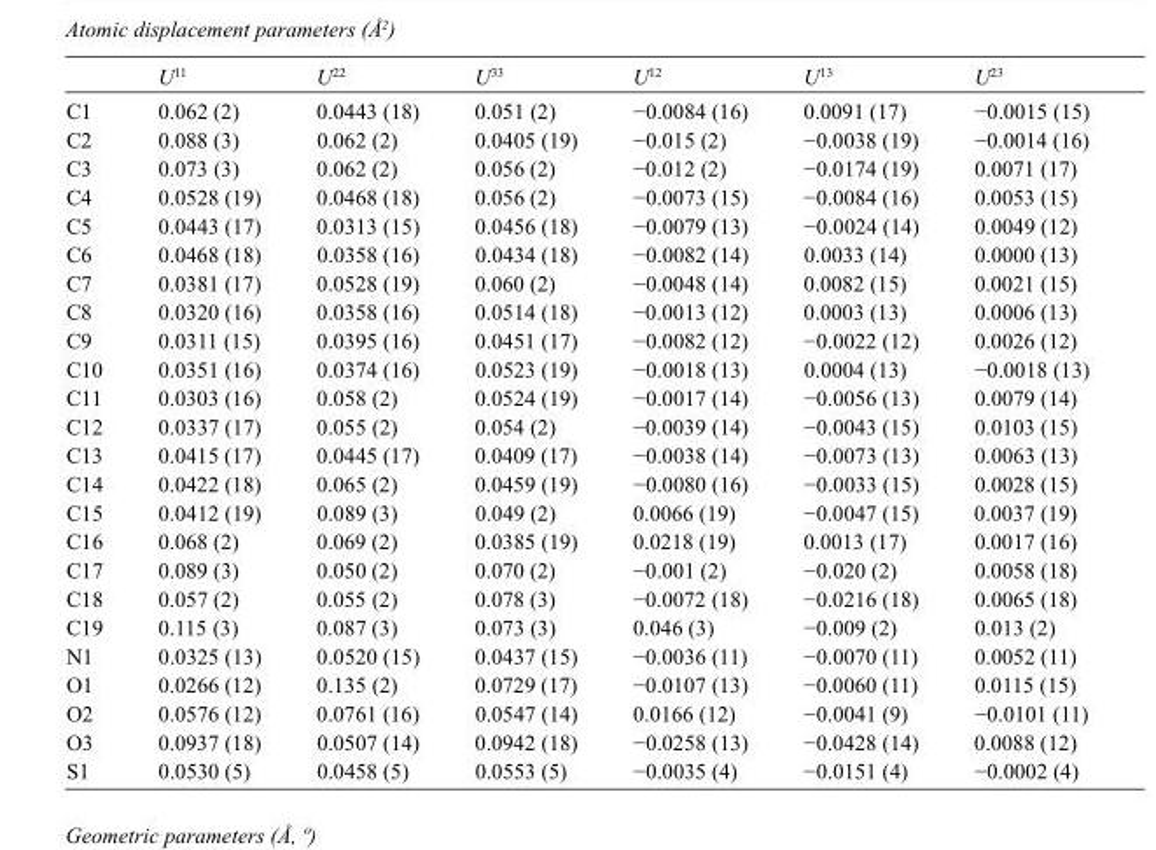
<table><thead><tr><td></td><td>U<sup>11</sup></td><td>U<sup>22</sup></td><td>U<sup>33</sup></td><td>U<sup>12</sup></td><td>U<sup>13</sup></td><td>U<sup>23</sup></td></tr></thead><tbody><tr><td>C1</td><td>0.062 (2)</td><td>0.0443 (18)</td><td>0.051 (2)</td><td>−0.0084 (16)</td><td>0.0091 (17)</td><td>−0.0015 (15)</td></tr><tr><td>C2</td><td>0.088 (3)</td><td>0.062 (2)</td><td>0.0405 (19)</td><td>−0.015 (2)</td><td>−0.0038 (19)</td><td>−0.0014 (16)</td></tr><tr><td>C3</td><td>0.073 (3)</td><td>0.062 (2)</td><td>0.056 (2)</td><td>−0.012 (2)</td><td>−0.0174 (19)</td><td>0.0071 (17)</td></tr><tr><td>C4</td><td>0.0528 (19)</td><td>0.0468 (18)</td><td>0.056 (2)</td><td>−0.0073 (15)</td><td>−0.0084 (16)</td><td>0.0053 (15)</td></tr><tr><td>C5</td><td>0.0443 (17)</td><td>0.0313 (15)</td><td>0.0456 (18)</td><td>−0.0079 (13)</td><td>−0.0024 (14)</td><td>0.0049 (12)</td></tr><tr><td>C6</td><td>0.0468 (18)</td><td>0.0358 (16)</td><td>0.0434 (18)</td><td>−0.0082 (14)</td><td>0.0033 (14)</td><td>0.0000 (13)</td></tr><tr><td>C7</td><td>0.0381 (17)</td><td>0.0528 (19)</td><td>0.060 (2)</td><td>−0.0048 (14)</td><td>0.0082 (15)</td><td>0.0021 (15)</td></tr><tr><td>C8</td><td>0.0320 (16)</td><td>0.0358 (16)</td><td>0.0514 (18)</td><td>−0.0013 (12)</td><td>0.0003 (13)</td><td>0.0006 (13)</td></tr><tr><td>C9</td><td>0.0311 (15)</td><td>0.0395 (16)</td><td>0.0451 (17)</td><td>−0.0082 (12)</td><td>−0.0022 (12)</td><td>0.0026 (12)</td></tr><tr><td>C10</td><td>0.0351 (16)</td><td>0.0374 (16)</td><td>0.0523 (19)</td><td>−0.0018 (13)</td><td>0.0004 (13)</td><td>−0.0018 (13)</td></tr><tr><td>C11</td><td>0.0303 (16)</td><td>0.058 (2)</td><td>0.0524 (19)</td><td>−0.0017 (14)</td><td>−0.0056 (13)</td><td>0.0079 (14)</td></tr><tr><td>C12</td><td>0.0337 (17)</td><td>0.055 (2)</td><td>0.054 (2)</td><td>−0.0039 (14)</td><td>−0.0043 (15)</td><td>0.0103 (15)</td></tr><tr><td>C13</td><td>0.0415 (17)</td><td>0.0445 (17)</td><td>0.0409 (17)</td><td>−0.0038 (14)</td><td>−0.0073 (13)</td><td>0.0063 (13)</td></tr><tr><td>C14</td><td>0.0422 (18)</td><td>0.065 (2)</td><td>0.0459 (19)</td><td>−0.0080 (16)</td><td>−0.0033 (15)</td><td>0.0028 (15)</td></tr><tr><td>C15</td><td>0.0412 (19)</td><td>0.089 (3)</td><td>0.049 (2)</td><td>0.0066 (19)</td><td>−0.0047 (15)</td><td>0.0037 (19)</td></tr><tr><td>C16</td><td>0.068 (2)</td><td>0.069 (2)</td><td>0.0385 (19)</td><td>0.0218 (19)</td><td>0.0013 (17)</td><td>0.0017 (16)</td></tr><tr><td>C17</td><td>0.089 (3)</td><td>0.050 (2)</td><td>0.070 (2)</td><td>−0.001 (2)</td><td>−0.020 (2)</td><td>0.0058 (18)</td></tr><tr><td>C18</td><td>0.057 (2)</td><td>0.055 (2)</td><td>0.078 (3)</td><td>−0.0072 (18)</td><td>−0.0216 (18)</td><td>0.0065 (18)</td></tr><tr><td>C19</td><td>0.115 (3)</td><td>0.087 (3)</td><td>0.073 (3)</td><td>0.046 (3)</td><td>−0.009 (2)</td><td>0.013 (2)</td></tr><tr><td>N1</td><td>0.0325 (13)</td><td>0.0520 (15)</td><td>0.0437 (15)</td><td>−0.0036 (11)</td><td>−0.0070 (11)</td><td>0.0052 (11)</td></tr><tr><td>O1</td><td>0.0266 (12)</td><td>0.135 (2)</td><td>0.0729 (17)</td><td>−0.0107 (13)</td><td>−0.0060 (11)</td><td>0.0115 (15)</td></tr><tr><td>O2</td><td>0.0576 (12)</td><td>0.0761 (16)</td><td>0.0547 (14)</td><td>0.0166 (12)</td><td>−0.0041 (9)</td><td>−0.0101 (11)</td></tr><tr><td>O3</td><td>0.0937 (18)</td><td>0.0507 (14)</td><td>0.0942 (18)</td><td>−0.0258 (13)</td><td>−0.0428 (14)</td><td>0.0088 (12)</td></tr><tr><td>S1</td><td>0.0530 (5)</td><td>0.0458 (5)</td><td>0.0553 (5)</td><td>−0.0035 (4)</td><td>−0.0151 (4)</td><td>−0.0002 (4)</td></tr></tbody></table>